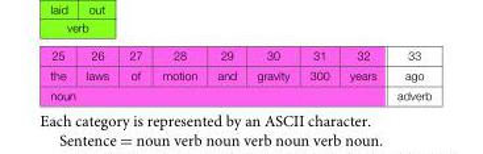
<table><tbody><tr><td>25</td><td>26</td><td>27</td><td>28</td><td>29</td><td>30</td><td>31</td><td>32</td><td>33</td></tr><tr><td>the</td><td>laws</td><td>of</td><td>motion</td><td>and</td><td>gravity</td><td>300</td><td>years</td><td>ago</td></tr><tr><td colspan="8">noun</td><td>adverb</td></tr></tbody></table>